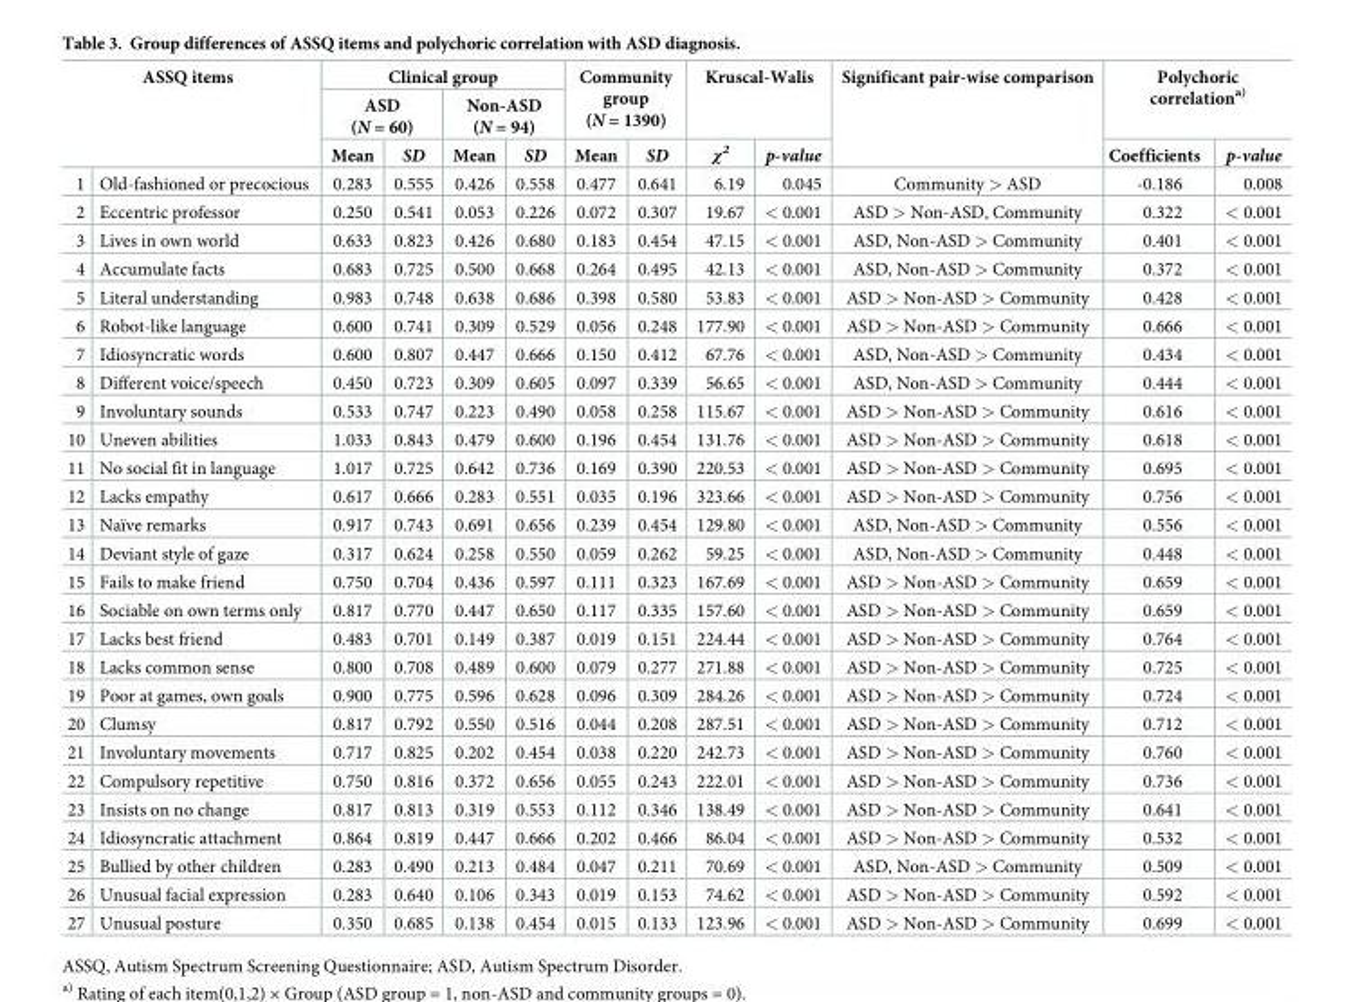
<table><thead><tr><td rowspan="3" colspan="2">ASSQ items</td><td colspan="4">Clinical group</td><td rowspan="2" colspan="2">Community group (N = 1390)</td><td rowspan="2" colspan="2">Kruscal-Walis</td><td rowspan="4">Significant pair-wise comparison Community &gt; ASD</td><td rowspan="2" colspan="2">Polychoric correlation<sup>a)</sup></td></tr><tr><td colspan="2">ASD (N = 60)</td><td colspan="2">Non-ASD (N = 94)</td></tr><tr><td rowspan="2">Mean 0.283</td><td rowspan="2">SD 0.555</td><td rowspan="2">Mean 0.426</td><td rowspan="2">SD 0.558</td><td rowspan="2">Mean 0.477</td><td rowspan="2">SD 0.641</td><td rowspan="2">χ<sup>2</sup> 6.19</td><td rowspan="2">p-value 0.045</td><td rowspan="2">Coefficients -0.186</td><td rowspan="2">p-value 0.008</td></tr><tr><td>1</td><td>Old-fashioned or precocious</td></tr></thead><tbody><tr><td>2</td><td>Eccentric professor</td><td>0.250</td><td>0.541</td><td>0.053</td><td>0.226</td><td>0.072</td><td>0.307</td><td>19.67</td><td>&lt; 0.001</td><td>ASD &gt; Non-ASD, Community</td><td>0.322</td><td>&lt; 0.001</td></tr><tr><td>3</td><td>Lives in own world</td><td>0.633</td><td>0.823</td><td>0.426</td><td>0.680</td><td>0.183</td><td>0.454</td><td>47.15</td><td>&lt; 0.001</td><td>ASD, Non-ASD &gt; Community</td><td>0.401</td><td>&lt; 0.001</td></tr><tr><td>4</td><td>Accumulate facts</td><td>0.683</td><td>0.725</td><td>0.500</td><td>0.668</td><td>0.264</td><td>0.495</td><td>42.13</td><td>&lt; 0.001</td><td>ASD, Non-ASD &gt; Community</td><td>0.372</td><td>&lt; 0.001</td></tr><tr><td>5</td><td>Literal understanding</td><td>0.983</td><td>0.748</td><td>0.638</td><td>0.686</td><td>0.398</td><td>0.580</td><td>53.83</td><td>&lt; 0.001</td><td>ASD &gt; Non-ASD &gt; Community</td><td>0.428</td><td>&lt; 0.001</td></tr><tr><td>6</td><td>Robot-like language</td><td>0.600</td><td>0.741</td><td>0.309</td><td>0.529</td><td>0.056</td><td>0.248</td><td>177.90</td><td>&lt; 0.001</td><td>ASD &gt; Non-ASD &gt; Community</td><td>0.666</td><td>&lt; 0.001</td></tr><tr><td>7</td><td>Idiosyncratic words</td><td>0.600</td><td>0.807</td><td>0.447</td><td>0.666</td><td>0.150</td><td>0.412</td><td>67.76</td><td>&lt; 0.001</td><td>ASD, Non-ASD &gt; Community</td><td>0.434</td><td>&lt; 0.001</td></tr><tr><td>8</td><td>Different voice/speech</td><td>0.450</td><td>0.723</td><td>0.309</td><td>0.605</td><td>0.097</td><td>0.339</td><td>56.65</td><td>&lt; 0.001</td><td>ASD, Non-ASD &gt; Community</td><td>0.444</td><td>&lt; 0.001</td></tr><tr><td>9</td><td>Involuntary sounds</td><td>0.533</td><td>0.747</td><td>0.223</td><td>0.490</td><td>0.058</td><td>0.258</td><td>115.67</td><td>&lt; 0.001</td><td>ASD &gt; Non-ASD &gt; Community</td><td>0.616</td><td>&lt; 0.001</td></tr><tr><td>10</td><td>Uneven abilities</td><td>1.033</td><td>0.843</td><td>0.479</td><td>0.600</td><td>0.196</td><td>0.454</td><td>131.76</td><td>&lt; 0.001</td><td>ASD &gt; Non-ASD &gt; Community</td><td>0.618</td><td>&lt; 0.001</td></tr><tr><td>11</td><td>No social fit in language</td><td>1.017</td><td>0.725</td><td>0.642</td><td>0.736</td><td>0.169</td><td>0.390</td><td>220.53</td><td>&lt; 0.001</td><td>ASD &gt; Non-ASD &gt; Community</td><td>0.695</td><td>&lt; 0.001</td></tr><tr><td>12</td><td>Lacks empathy</td><td>0.617</td><td>0.666</td><td>0.283</td><td>0.551</td><td>0.035</td><td>0.196</td><td>323.66</td><td>&lt; 0.001</td><td>ASD &gt; Non-ASD &gt; Community</td><td>0.756</td><td>&lt; 0.001</td></tr><tr><td>13</td><td>Naïve remarks</td><td>0.917</td><td>0.743</td><td>0.691</td><td>0.656</td><td>0.239</td><td>0.454</td><td>129.80</td><td>&lt; 0.001</td><td>ASD, Non-ASD &gt; Community</td><td>0.556</td><td>&lt; 0.001</td></tr><tr><td>14</td><td>Deviant style of gaze</td><td>0.317</td><td>0.624</td><td>0.258</td><td>0.550</td><td>0.059</td><td>0.262</td><td>59.25</td><td>&lt; 0.001</td><td>ASD, Non-ASD &gt; Community</td><td>0.448</td><td>&lt; 0.001</td></tr><tr><td>15</td><td>Fails to make friend</td><td>0.750</td><td>0.704</td><td>0.436</td><td>0.597</td><td>0.111</td><td>0.323</td><td>167.69</td><td>&lt; 0.001</td><td>ASD &gt; Non-ASD &gt; Community</td><td>0.659</td><td>&lt; 0.001</td></tr><tr><td>16</td><td>Sociable on own terms only</td><td>0.817</td><td>0.770</td><td>0.447</td><td>0.650</td><td>0.117</td><td>0.335</td><td>157.60</td><td>&lt; 0.001</td><td>ASD &gt; Non-ASD &gt; Community</td><td>0.659</td><td>&lt; 0.001</td></tr><tr><td>17</td><td>Lacks best friend</td><td>0.483</td><td>0.701</td><td>0.149</td><td>0.387</td><td>0.019</td><td>0.151</td><td>224.44</td><td>&lt; 0.001</td><td>ASD &gt; Non-ASD &gt; Community</td><td>0.764</td><td>&lt; 0.001</td></tr><tr><td>18</td><td>Lacks common sense</td><td>0.800</td><td>0.708</td><td>0.489</td><td>0.600</td><td>0.079</td><td>0.277</td><td>271.88</td><td>&lt; 0.001</td><td>ASD &gt; Non-ASD &gt; Community</td><td>0.725</td><td>&lt; 0.001</td></tr><tr><td>19</td><td>Poor at games, own goals</td><td>0.900</td><td>0.775</td><td>0.596</td><td>0.628</td><td>0.096</td><td>0.309</td><td>284.26</td><td>&lt; 0.001</td><td>ASD &gt; Non-ASD &gt; Community</td><td>0.724</td><td>&lt; 0.001</td></tr><tr><td>20</td><td>Clumsy</td><td>0.817</td><td>0.792</td><td>0.550</td><td>0.516</td><td>0.044</td><td>0.208</td><td>287.51</td><td>&lt; 0.001</td><td>ASD &gt; Non-ASD &gt; Community</td><td>0.712</td><td>&lt; 0.001</td></tr><tr><td>21</td><td>Involuntary movements</td><td>0.717</td><td>0.825</td><td>0.202</td><td>0.454</td><td>0.038</td><td>0.220</td><td>242.73</td><td>&lt; 0.001</td><td>ASD &gt; Non-ASD &gt; Community</td><td>0.760</td><td>&lt; 0.001</td></tr><tr><td>22</td><td>Compulsory repetitive</td><td>0.750</td><td>0.816</td><td>0.372</td><td>0.656</td><td>0.055</td><td>0.243</td><td>222.01</td><td>&lt; 0.001</td><td>ASD &gt; Non-ASD &gt; Community</td><td>0.736</td><td>&lt; 0.001</td></tr><tr><td>23</td><td>Insists on no change</td><td>0.817</td><td>0.813</td><td>0.319</td><td>0.553</td><td>0.112</td><td>0.346</td><td>138.49</td><td>&lt; 0.001</td><td>ASD &gt; Non-ASD &gt; Community</td><td>0.641</td><td>&lt; 0.001</td></tr><tr><td>24</td><td>Idiosyncratic attachment</td><td>0.864</td><td>0.819</td><td>0.447</td><td>0.666</td><td>0.202</td><td>0.466</td><td>86.04</td><td>&lt; 0.001</td><td>ASD &gt; Non-ASD &gt; Community</td><td>0.532</td><td>&lt; 0.001</td></tr><tr><td>25</td><td>Bullied by other children</td><td>0.283</td><td>0.490</td><td>0.213</td><td>0.484</td><td>0.047</td><td>0.211</td><td>70.69</td><td>&lt; 0.001</td><td>ASD, Non-ASD &gt; Community</td><td>0.509</td><td>&lt; 0.001</td></tr><tr><td>26</td><td>Unusual facial expression</td><td>0.283</td><td>0.640</td><td>0.106</td><td>0.343</td><td>0.019</td><td>0.153</td><td>74.62</td><td>&lt; 0.001</td><td>ASD &gt; Non-ASD &gt; Community</td><td>0.592</td><td>&lt; 0.001</td></tr><tr><td>27</td><td>Unusual posture</td><td>0.350</td><td>0.685</td><td>0.138</td><td>0.454</td><td>0.015</td><td>0.133</td><td>123.96</td><td>&lt; 0.001</td><td>ASD &gt; Non-ASD &gt; Community</td><td>0.699</td><td>&lt; 0.001</td></tr></tbody></table>